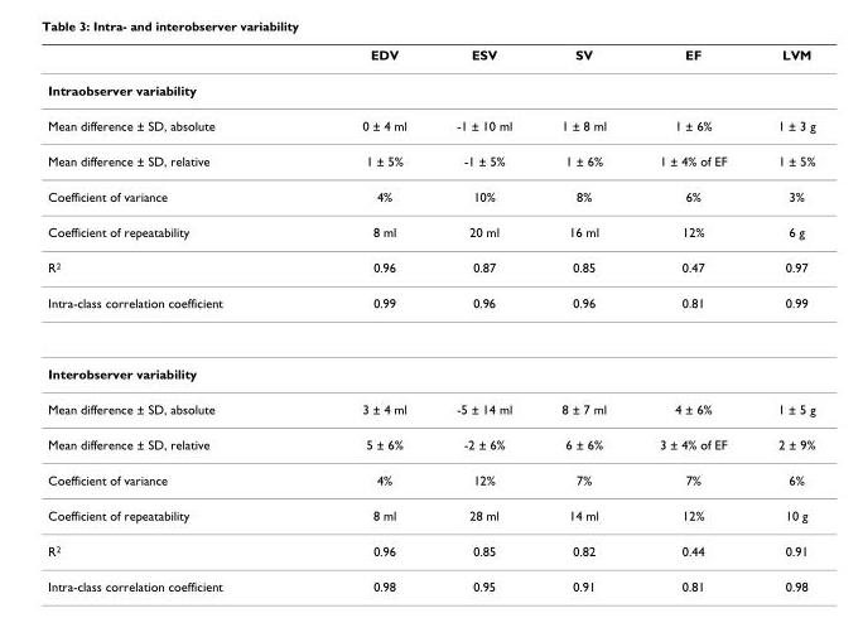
<table><thead><tr><td></td><td>EDV</td><td>ESV</td><td>SV</td><td>EF</td><td>LVM</td></tr></thead><tbody><tr><td colspan="6">Intraobserver variability</td></tr><tr><td>Mean difference ± SD, absolute</td><td>0 ± 4 ml</td><td>-1 ± 10 ml</td><td>1 ± 8 ml</td><td>1 ± 6%</td><td>1 ± 3 g</td></tr><tr><td>Mean difference ± SD, relative</td><td>1 ± 5%</td><td>-1 ± 5%</td><td>1 ± 6%</td><td>1 ± 4% of EF</td><td>1 ± 5%</td></tr><tr><td>Coefficient of variance</td><td>4%</td><td>10%</td><td>8%</td><td>6%</td><td>3%</td></tr><tr><td>Coefficient of repeatability</td><td>8 ml</td><td>20 ml</td><td>16 ml</td><td>12%</td><td>6 g</td></tr><tr><td>R2</td><td>0.96</td><td>0.87</td><td>0.85</td><td>0.47</td><td>0.97</td></tr><tr><td>Intra-class correlation coefficient</td><td>0.99</td><td>0.96</td><td>0.96</td><td>0.81</td><td>0.99</td></tr><tr><td colspan="6">Interobserver variability</td></tr><tr><td>Mean difference ± SD, absolute</td><td>3 ± 4 ml</td><td>-5 ± 14 ml</td><td>8 ± 7 ml</td><td>4 ± 6%</td><td>1 ± 5 g</td></tr><tr><td>Mean difference ± SD, relative</td><td>5 ± 6%</td><td>-2 ± 6%</td><td>6 ± 6%</td><td>3 ± 4% of EF</td><td>2 ± 9%</td></tr><tr><td>Coefficient of variance</td><td>4%</td><td>12%</td><td>7%</td><td>7%</td><td>6%</td></tr><tr><td>Coefficient of repeatability</td><td>8 ml</td><td>28 ml</td><td>14 ml</td><td>12%</td><td>10 g</td></tr><tr><td>R2</td><td>0.96</td><td>0.85</td><td>0.82</td><td>0.44</td><td>0.91</td></tr><tr><td>Intra-class correlation coefficient</td><td>0.98</td><td>0.95</td><td>0.91</td><td>0.81</td><td>0.98</td></tr></tbody></table>